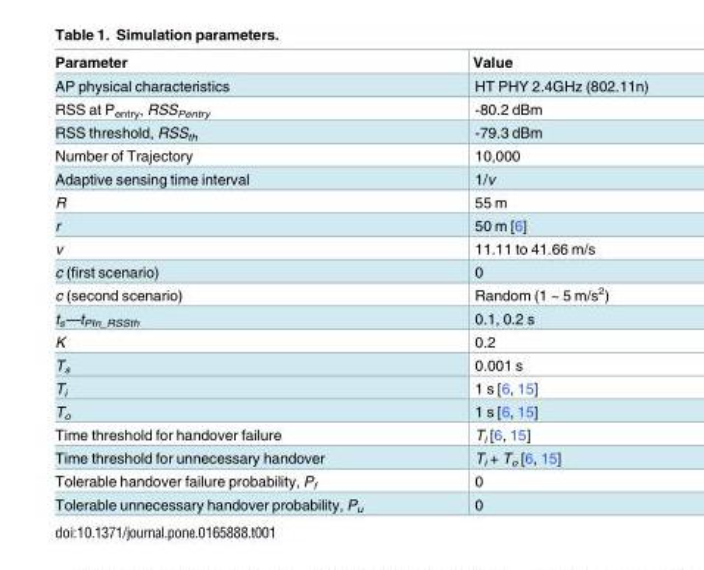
<table><thead><tr><td>Parameter</td><td>Value</td></tr></thead><tbody><tr><td>AP physical characteristics</td><td>HT PHY 2.4GHz (802.11n)</td></tr><tr><td>RSS at P<sub>entry</sub>, RSS<sub>Pentry</sub></td><td>-80.2 dBm</td></tr><tr><td>RSS threshold, RSS<sub>th</sub></td><td>-79.3 dBm</td></tr><tr><td>Number of Trajectory</td><td>10,000</td></tr><tr><td>Adaptive sensing time interval</td><td>1/v</td></tr><tr><td>R</td><td>55 m</td></tr><tr><td>r</td><td>50 m [6]</td></tr><tr><td>v</td><td>11.11 to 41.66 m/s</td></tr><tr><td>c (first scenario)</td><td>0</td></tr><tr><td>c (second scenario)</td><td>Random (1 ~ 5 m/s<sup>2</sup>)</td></tr><tr><td>t<sub>s</sub>—t<sub>PIn_RSSth</sub></td><td>0.1, 0.2 s</td></tr><tr><td>K</td><td>0.2</td></tr><tr><td>T<sub>s</sub></td><td>0.001 s</td></tr><tr><td>T<sub>i</sub></td><td>1 s [6, 15]</td></tr><tr><td>T<sub>o</sub></td><td>1 s [6, 15]</td></tr><tr><td>Time threshold for handover failure</td><td>T<sub>i</sub> [6, 15]</td></tr><tr><td>Time threshold for unnecessary handover</td><td>T<sub>i</sub> + T<sub>o</sub> [6, 15]</td></tr><tr><td>Tolerable handover failure probability, P<sub>f</sub></td><td>0</td></tr><tr><td>Tolerable unnecessary handover probability, P<sub>u</sub></td><td>0</td></tr></tbody></table>